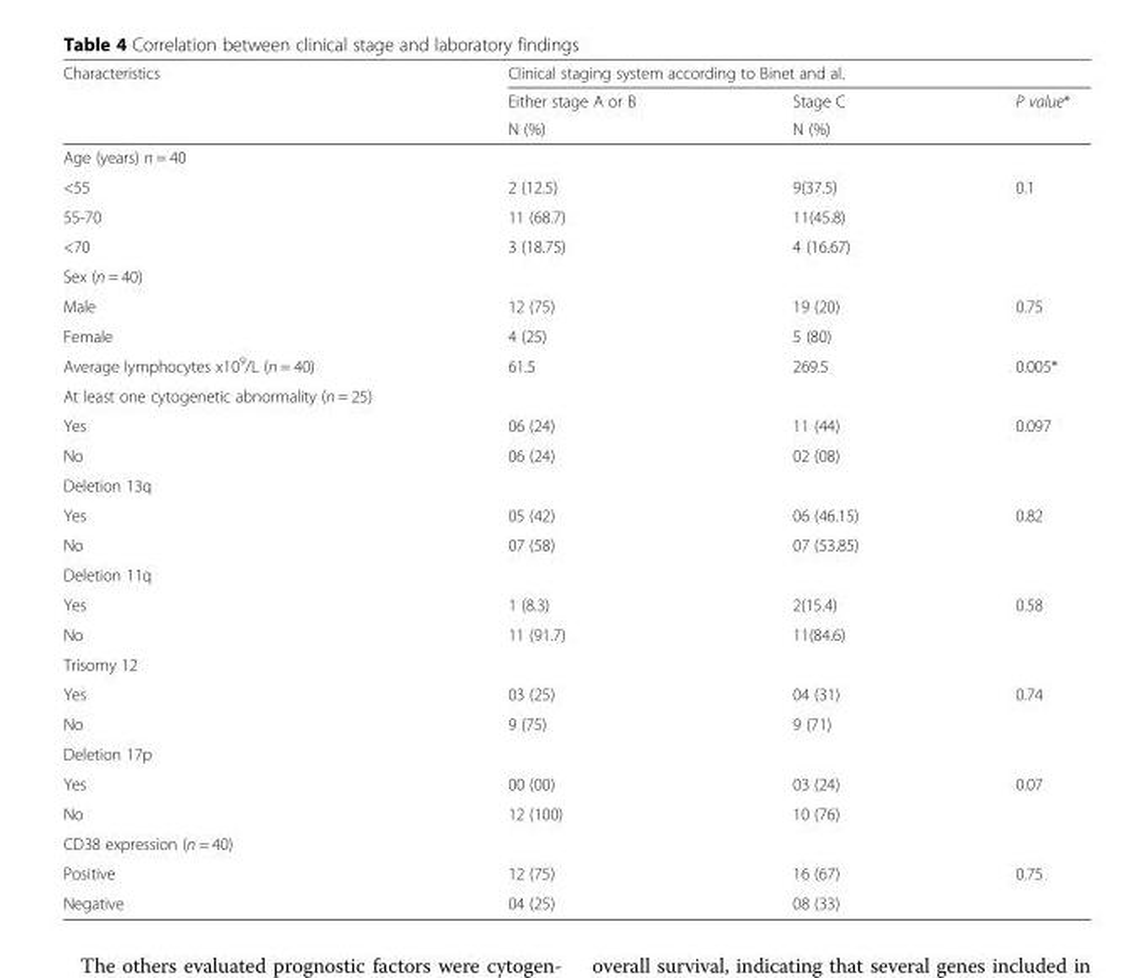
<table><thead><tr><td rowspan="3">Characteristics</td><td colspan="3">Clinical staging system according to Binet and al.</td></tr><tr><td rowspan="2">Either stage A or B N (%)</td><td rowspan="2">Stage C N (%)</td><td rowspan="2">P value*</td></tr><tr></tr></thead><tbody><tr><td colspan="4">Age (years) n = 40</td></tr><tr><td>&lt;55</td><td>2 (12.5)</td><td>9(37.5)</td><td rowspan="3">0.1</td></tr><tr><td>55-70</td><td>11 (68.7)</td><td>11(45.8)</td></tr><tr><td>&lt;70</td><td>3 (18.75)</td><td>4 (16.67)</td></tr><tr><td colspan="4">Sex (n = 40)</td></tr><tr><td>Male</td><td>12 (75)</td><td>19 (20)</td><td>0.75</td></tr><tr><td>Female</td><td>4 (25)</td><td>5 (80)</td><td></td></tr><tr><td>Average lymphocytes x10<sup>9</sup>/L (n = 40)</td><td>61.5</td><td>269.5</td><td>0.005*</td></tr><tr><td colspan="4">At least one cytogenetic abnormality (n = 25)</td></tr><tr><td>Yes</td><td>06 (24)</td><td>11 (44)</td><td rowspan="2">0.097</td></tr><tr><td>No</td><td>06 (24)</td><td>02 (08)</td></tr><tr><td colspan="4">Deletion 13q</td></tr><tr><td>Yes</td><td>05 (42)</td><td>06 (46.15)</td><td rowspan="2">0.82</td></tr><tr><td>No</td><td>07 (58)</td><td>07 (53.85)</td></tr><tr><td colspan="4">Deletion 11q</td></tr><tr><td>Yes</td><td>1 (8.3)</td><td>2(15.4)</td><td rowspan="2">0.58</td></tr><tr><td>No</td><td>11 (91.7)</td><td>11(84.6)</td></tr><tr><td colspan="4">Trisomy 12</td></tr><tr><td>Yes</td><td>03 (25)</td><td>04 (31)</td><td rowspan="2">0.74</td></tr><tr><td>No</td><td>9 (75)</td><td>9 (71)</td></tr><tr><td colspan="4">Deletion 17p</td></tr><tr><td>Yes</td><td>00 (00)</td><td>03 (24)</td><td rowspan="2">0.07</td></tr><tr><td>No</td><td>12 (100)</td><td>10 (76)</td></tr><tr><td colspan="4">CD38 expression (n = 40)</td></tr><tr><td>Positive</td><td>12 (75)</td><td>16 (67)</td><td rowspan="2">0.75</td></tr><tr><td>Negative</td><td>04 (25)</td><td>08 (33)</td></tr></tbody></table>